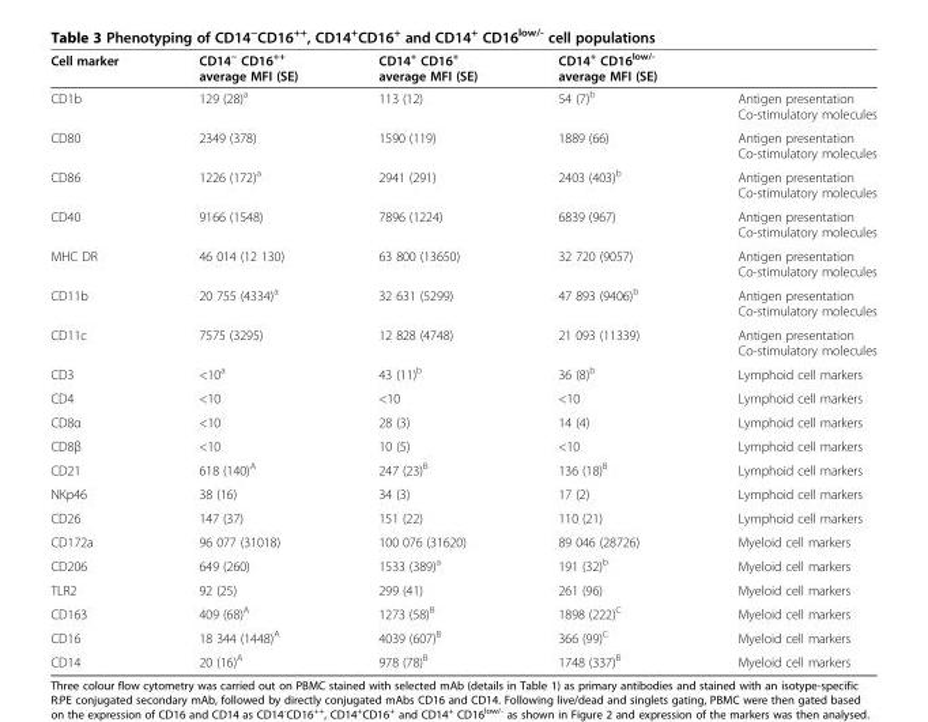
<table><thead><tr><td>Cell marker</td><td>CD14<sup>−</sup> CD16<sup>++</sup> average MFI (SE)</td><td>CD14<sup>+</sup> CD16<sup>+</sup> average MFI (SE)</td><td>CD14<sup>+</sup> CD16<sup>low/-</sup> average MFI (SE)</td><td></td></tr></thead><tbody><tr><td>CD1b</td><td>129 (28)<sup>a</sup></td><td>113 (12)</td><td>54 (7)<sup>b</sup></td><td>Antigen presentation Co-stimulatory molecules</td></tr><tr><td>CD80</td><td>2349 (378)</td><td>1590 (119)</td><td>1889 (66)</td><td>Antigen presentation Co-stimulatory molecules</td></tr><tr><td>CD86</td><td>1226 (172)<sup>a</sup></td><td>2941 (291)</td><td>2403 (403)<sup>b</sup></td><td>Antigen presentation Co-stimulatory molecules</td></tr><tr><td>CD40</td><td>9166 (1548)</td><td>7896 (1224)</td><td>6839 (967)</td><td>Antigen presentation Co-stimulatory molecules</td></tr><tr><td>MHC DR</td><td>46 014 (12 130)</td><td>63 800 (13650)</td><td>32 720 (9057)</td><td>Antigen presentation Co-stimulatory molecules</td></tr><tr><td>CD11b</td><td>20 755 (4334)<sup>a</sup></td><td>32 631 (5299)</td><td>47 893 (9406)<sup>b</sup></td><td>Antigen presentation Co-stimulatory molecules</td></tr><tr><td>CD11c</td><td>7575 (3295)</td><td>12 828 (4748)</td><td>21 093 (11339)</td><td>Antigen presentation Co-stimulatory molecules</td></tr><tr><td>CD3</td><td>&lt;10<sup>a</sup></td><td>43 (11)<sup>b</sup></td><td>36 (8)<sup>b</sup></td><td>Lymphoid cell markers</td></tr><tr><td>CD4</td><td>&lt;10</td><td>&lt;10</td><td>&lt;10</td><td>Lymphoid cell markers</td></tr><tr><td>CD8α</td><td>&lt;10</td><td>28 (3)</td><td>14 (4)</td><td>Lymphoid cell markers</td></tr><tr><td>CD8β</td><td>&lt;10</td><td>10 (5)</td><td>&lt;10</td><td>Lymphoid cell markers</td></tr><tr><td>CD21</td><td>618 (140)<sup>A</sup></td><td>247 (23)<sup>B</sup></td><td>136 (18)<sup>B</sup></td><td>Lymphoid cell markers</td></tr><tr><td>NKp46</td><td>38 (16)</td><td>34 (3)</td><td>17 (2)</td><td>Lymphoid cell markers</td></tr><tr><td>CD26</td><td>147 (37)</td><td>151 (22)</td><td>110 (21)</td><td>Lymphoid cell markers</td></tr><tr><td>CD172a</td><td>96 077 (31018)</td><td>100 076 (31620)</td><td>89 046 (28726)</td><td>Myeloid cell markers</td></tr><tr><td>CD206</td><td>649 (260)</td><td>1533 (389)<sup>a</sup></td><td>191 (32)<sup>b</sup></td><td>Myeloid cell markers</td></tr><tr><td>TLR2</td><td>92 (25)</td><td>299 (41)</td><td>261 (96)</td><td>Myeloid cell markers</td></tr><tr><td>CD163</td><td>409 (68)<sup>A</sup></td><td>1273 (58)<sup>B</sup></td><td>1898 (222)<sup>C</sup></td><td>Myeloid cell markers</td></tr><tr><td>CD16</td><td>18 344 (1448)<sup>A</sup></td><td>4039 (607)<sup>B</sup></td><td>366 (99)<sup>C</sup></td><td>Myeloid cell markers</td></tr><tr><td>CD14</td><td>20 (16)<sup>A</sup></td><td>978 (78)<sup>B</sup></td><td>1748 (337)<sup>B</sup></td><td>Myeloid cell markers</td></tr></tbody></table>